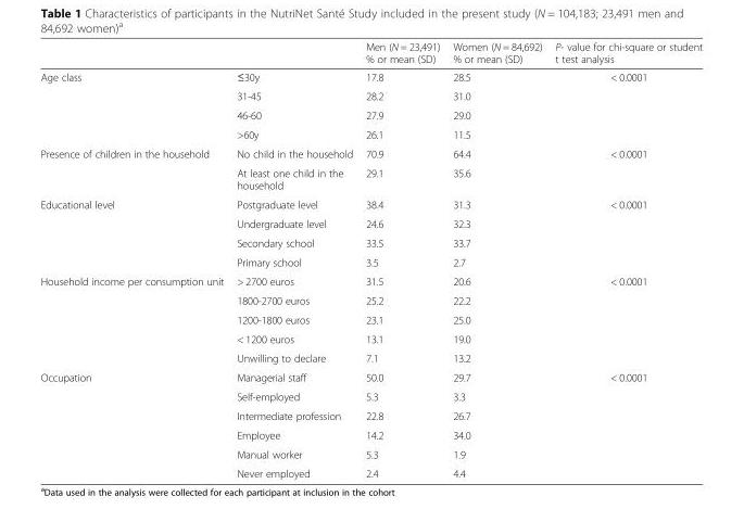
<table><thead><tr><td></td><td></td><td>Men (N = 23,491) % or mean (SD)</td><td>Women (N = 84,692) % or mean (SD)</td><td>P- value for chi-square or student t test analysis</td></tr></thead><tbody><tr><td rowspan="4">Age class</td><td>≤30y</td><td>17.8</td><td>28.5</td><td>&lt; 0.0001</td></tr><tr><td>31-45</td><td>28.2</td><td>31.0</td><td></td></tr><tr><td>46-60</td><td>27.9</td><td>29.0</td><td></td></tr><tr><td>&gt;60y</td><td>26.1</td><td>11.5</td><td></td></tr><tr><td rowspan="2">Presence of children in the household</td><td>No child in the household</td><td>70.9</td><td>64.4</td><td>&lt; 0.0001</td></tr><tr><td>At least one child in the household</td><td>29.1</td><td>35.6</td><td></td></tr><tr><td rowspan="4">Educational level</td><td>Postgraduate level</td><td>38.4</td><td>31.3</td><td>&lt; 0.0001</td></tr><tr><td>Undergraduate level</td><td>24.6</td><td>32.3</td><td></td></tr><tr><td>Secondary school</td><td>33.5</td><td>33.7</td><td></td></tr><tr><td>Primary school</td><td>3.5</td><td>2.7</td><td></td></tr><tr><td rowspan="5">Household income per consumption unit</td><td>&gt; 2700 euros</td><td>31.5</td><td>20.6</td><td>&lt; 0.0001</td></tr><tr><td>1800-2700 euros</td><td>25.2</td><td>22.2</td><td></td></tr><tr><td>1200-1800 euros</td><td>23.1</td><td>25.0</td><td></td></tr><tr><td>&lt; 1200 euros</td><td>13.1</td><td>19.0</td><td></td></tr><tr><td>Unwilling to declare</td><td>7.1</td><td>13.2</td><td></td></tr><tr><td rowspan="6">Occupation</td><td>Managerial staff</td><td>50.0</td><td>29.7</td><td>&lt; 0.0001</td></tr><tr><td>Self-employed</td><td>5.3</td><td>3.3</td><td></td></tr><tr><td>Intermediate profession</td><td>22.8</td><td>26.7</td><td></td></tr><tr><td>Employee</td><td>14.2</td><td>34.0</td><td></td></tr><tr><td>Manual worker</td><td>5.3</td><td>1.9</td><td></td></tr><tr><td>Never employed</td><td>2.4</td><td>4.4</td><td></td></tr></tbody></table>